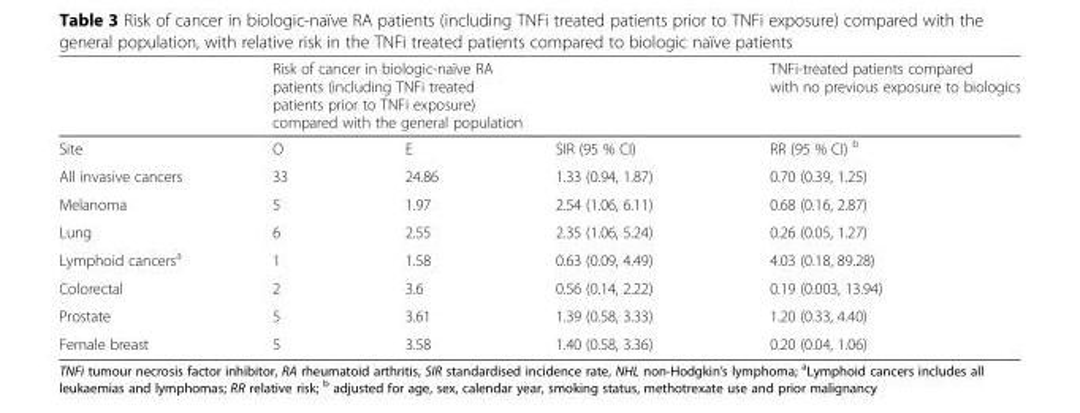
<table><thead><tr><td rowspan="2">Site</td><td colspan="3">Risk of cancer in biologic-naïve RA patients (including TNFi treated patients prior to TNFi exposure) compared with the general population</td><td rowspan="2">TNFi-treated patients compared with no previous exposure to biologics RR (95 % CI) <sup>b</sup></td></tr><tr><td>O</td><td>E</td><td>SIR (95 % CI)</td></tr></thead><tbody><tr><td>All invasive cancers</td><td>33</td><td>24.86</td><td>1.33 (0.94, 1.87)</td><td>0.70 (0.39, 1.25)</td></tr><tr><td>Melanoma</td><td>5</td><td>1.97</td><td>2.54 (1.06, 6.11)</td><td>0.68 (0.16, 2.87)</td></tr><tr><td>Lung</td><td>6</td><td>2.55</td><td>2.35 (1.06, 5.24)</td><td>0.26 (0.05, 1.27)</td></tr><tr><td>Lymphoid cancers<sup>a</sup></td><td>1</td><td>1.58</td><td>0.63 (0.09, 4.49)</td><td>4.03 (0.18, 89.28)</td></tr><tr><td>Colorectal</td><td>2</td><td>3.6</td><td>0.56 (0.14, 2.22)</td><td>0.19 (0.003, 13.94)</td></tr><tr><td>Prostate</td><td>5</td><td>3.61</td><td>1.39 (0.58, 3.33)</td><td>1.20 (0.33, 4.40)</td></tr><tr><td>Female breast</td><td>5</td><td>3.58</td><td>1.40 (0.58, 3.36)</td><td>0.20 (0.04, 1.06)</td></tr></tbody></table>